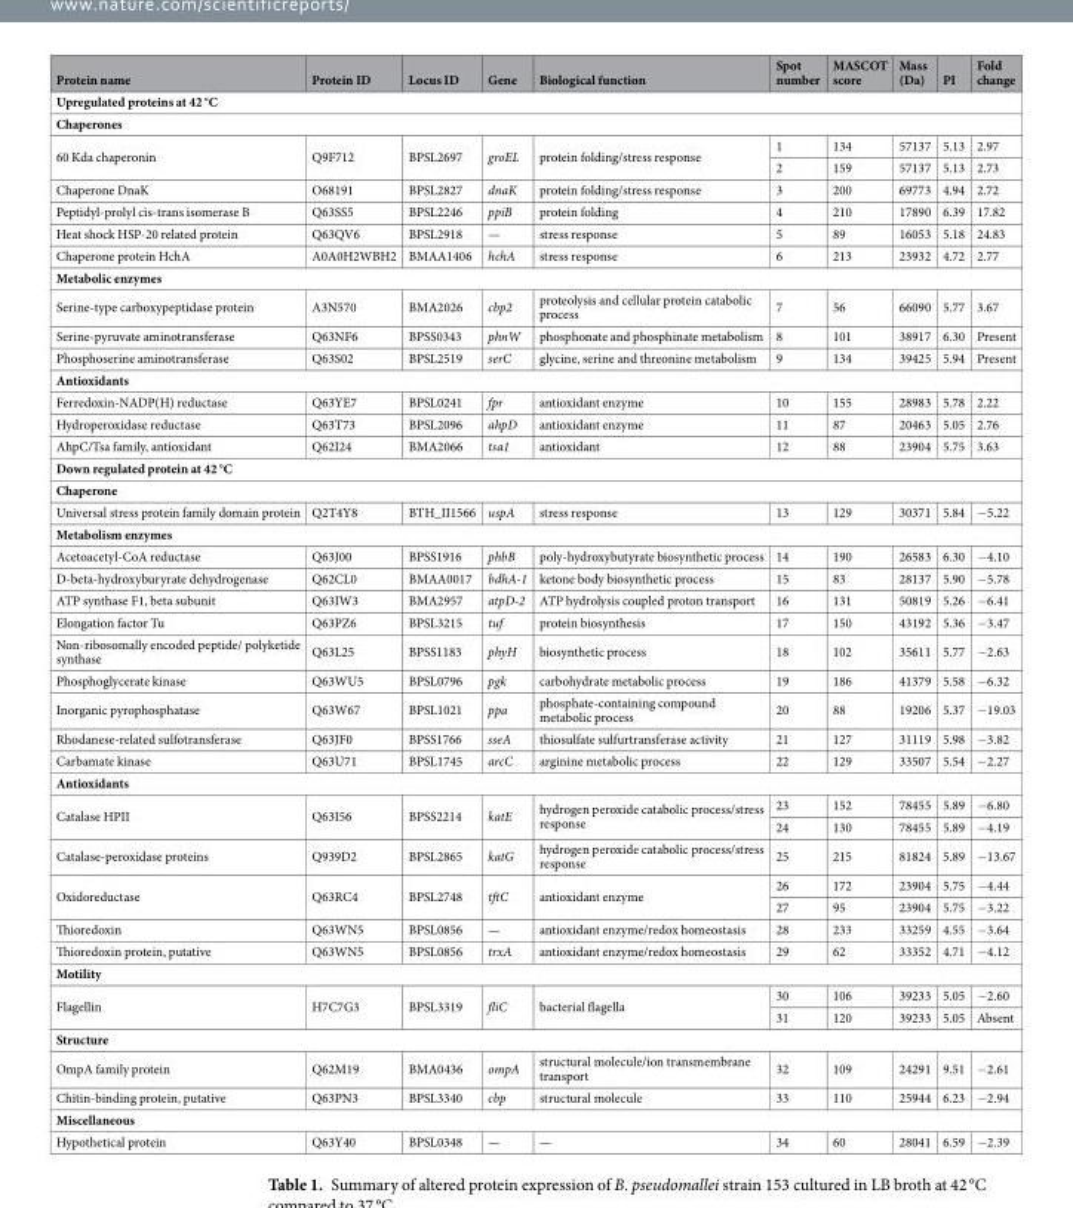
<table><thead><tr><td>Protein name</td><td>Protein ID</td><td>Locus ID</td><td>Gene</td><td>Biological function</td><td>Spot number</td><td>MASCOT score</td><td>Mass (Da)</td><td>PI</td><td>Fold change</td></tr></thead><tbody><tr><td colspan="10">Upregulated proteins at 42 °C</td></tr><tr><td colspan="10">Chaperones</td></tr><tr><td rowspan="2">60 Kda chaperonin</td><td rowspan="2">Q9F712</td><td rowspan="2">BPSL2697</td><td rowspan="2">groEL</td><td rowspan="2">protein folding/stress response</td><td>1</td><td>134</td><td>57137</td><td>5.13</td><td>2.97</td></tr><tr><td>2</td><td>159</td><td>57137</td><td>5.13</td><td>2.73</td></tr><tr><td>Chaperone DnaK</td><td>O68191</td><td>BPSL2827</td><td>dnaK</td><td>protein folding/stress response</td><td>3</td><td>200</td><td>69773</td><td>4.94</td><td>2.72</td></tr><tr><td>Peptidyl-prolyl cis-trans isomerase B</td><td>Q63SS5</td><td>BPSL2246</td><td>ppiB</td><td>protein folding</td><td>4</td><td>210</td><td>17890</td><td>6.39</td><td>17.82</td></tr><tr><td>Heat shock HSP-20 related protein</td><td>Q63QV6</td><td>BPSL2918</td><td>—</td><td>stress response</td><td>5</td><td>89</td><td>16053</td><td>5.18</td><td>24.83</td></tr><tr><td>Chaperone protein HchA</td><td>A0A0H2WBH2</td><td>BMAA1406</td><td>hchA</td><td>stress response</td><td>6</td><td>213</td><td>23932</td><td>4.72</td><td>2.77</td></tr><tr><td colspan="10">Metabolic enzymes</td></tr><tr><td>Serine-type carboxypeptidase protein</td><td>A3N570</td><td>BMA2026</td><td>cbp2</td><td>proteolysis and cellular protein catabolic process</td><td>7</td><td>56</td><td>66090</td><td>5.77</td><td>3.67</td></tr><tr><td>Serine-pyruvate aminotransferase</td><td>Q63NF6</td><td>BPSS0343</td><td>phnW</td><td>phosphonate and phosphinate metabolism</td><td>8</td><td>101</td><td>38917</td><td>6.30</td><td>Present</td></tr><tr><td>Phosphoserine aminotransferase</td><td>Q63S02</td><td>BPSL2519</td><td>serC</td><td>glycine, serine and threonine metabolism</td><td>9</td><td>134</td><td>39425</td><td>5.94</td><td>Present</td></tr><tr><td colspan="10">Antioxidants</td></tr><tr><td>Ferredoxin-NADP(H) reductase</td><td>Q63YE7</td><td>BPSL0241</td><td>fpr</td><td>antioxidant enzyme</td><td>10</td><td>155</td><td>28983</td><td>5.78</td><td>2.22</td></tr><tr><td>Hydroperoxidase reductase</td><td>Q63T73</td><td>BPSL2096</td><td>ahpD</td><td>antioxidant enzyme</td><td>11</td><td>87</td><td>20463</td><td>5.05</td><td>2.76</td></tr><tr><td>AhpC/Tsa family, antioxidant</td><td>Q62I24</td><td>BMA2066</td><td>tsa1</td><td>antioxidant</td><td>12</td><td>88</td><td>23904</td><td>5.75</td><td>3.63</td></tr><tr><td colspan="10">Down regulated protein at 42 °C</td></tr><tr><td colspan="10">Chaperone</td></tr><tr><td>Universal stress protein family domain protein</td><td>Q2T4Y8</td><td>BTH_II1566</td><td>uspA</td><td>stress response</td><td>13</td><td>129</td><td>30371</td><td>5.84</td><td>−5.22</td></tr><tr><td colspan="10">Metabolism enzymes</td></tr><tr><td>Acetoacetyl-CoA reductase</td><td>Q63J00</td><td>BPSS1916</td><td>phbB</td><td>poly-hydroxybutyrate biosynthetic process</td><td>14</td><td>190</td><td>26583</td><td>6.30</td><td>−4.10</td></tr><tr><td>D-beta-hydroxyburyrate dehydrogenase</td><td>Q62CL0</td><td>BMAA0017</td><td>bdhA-1</td><td>ketone body biosynthetic process</td><td>15</td><td>83</td><td>28137</td><td>5.90</td><td>−5.78</td></tr><tr><td>ATP synthase F1, beta subunit</td><td>Q63IW3</td><td>BMA2957</td><td>atpD-2</td><td>ATP hydrolysis coupled proton transport</td><td>16</td><td>131</td><td>50819</td><td>5.26</td><td>−6.41</td></tr><tr><td>Elongation factor Tu</td><td>Q63PZ6</td><td>BPSL3215</td><td>tuf</td><td>protein biosynthesis</td><td>17</td><td>150</td><td>43192</td><td>5.36</td><td>−3.47</td></tr><tr><td>Non-ribosomally encoded peptide/ polyketide synthase</td><td>Q63L25</td><td>BPSS1183</td><td>phyH</td><td>biosynthetic process</td><td>18</td><td>102</td><td>35611</td><td>5.77</td><td>−2.63</td></tr><tr><td>Phosphoglycerate kinase</td><td>Q63WU5</td><td>BPSL0796</td><td>pgk</td><td>carbohydrate metabolic process</td><td>19</td><td>186</td><td>41379</td><td>5.58</td><td>−6.32</td></tr><tr><td>Inorganic pyrophosphatase</td><td>Q63W67</td><td>BPSL1021</td><td>ppa</td><td>phosphate-containing compound metabolic process</td><td>20</td><td>88</td><td>19206</td><td>5.37</td><td>−19.03</td></tr><tr><td>Rhodanese-related sulfotransferase</td><td>Q63JF0</td><td>BPSS1766</td><td>sseA</td><td>thiosulfate sulfurtransferase activity</td><td>21</td><td>127</td><td>31119</td><td>5.98</td><td>−3.82</td></tr><tr><td>Carbamate kinase</td><td>Q63U71</td><td>BPSL1745</td><td>arcC</td><td>arginine metabolic process</td><td>22</td><td>129</td><td>33507</td><td>5.54</td><td>−2.27</td></tr><tr><td colspan="10">Antioxidants</td></tr><tr><td rowspan="2">Catalase HPII</td><td rowspan="2">Q63I56</td><td rowspan="2">BPSS2214</td><td rowspan="2">katE</td><td rowspan="2">hydrogen peroxide catabolic process/stress response</td><td>23</td><td>152</td><td>78455</td><td>5.89</td><td>−6.80</td></tr><tr><td>24</td><td>130</td><td>78455</td><td>5.89</td><td>−4.19</td></tr><tr><td>Catalase-peroxidase proteins</td><td>Q939D2</td><td>BPSL2865</td><td>katG</td><td>hydrogen peroxide catabolic process/stress response</td><td>25</td><td>215</td><td>81824</td><td>5.89</td><td>−13.67</td></tr><tr><td rowspan="2">Oxidoreductase</td><td rowspan="2">Q63RC4</td><td rowspan="2">BPSL2748</td><td rowspan="2">tftC</td><td rowspan="2">antioxidant enzyme</td><td>26</td><td>172</td><td>23904</td><td>5.75</td><td>−4.44</td></tr><tr><td>27</td><td>95</td><td>23904</td><td>5.75</td><td>−3.22</td></tr><tr><td>Thioredoxin</td><td>Q63WN5</td><td>BPSL0856</td><td>—</td><td>antioxidant enzyme/redox homeostasis</td><td>28</td><td>233</td><td>33259</td><td>4.55</td><td>−3.64</td></tr><tr><td>Thioredoxin protein, putative</td><td>Q63WN5</td><td>BPSL0856</td><td>trxA</td><td>antioxidant enzyme/redox homeostasis</td><td>29</td><td>62</td><td>33352</td><td>4.71</td><td>−4.12</td></tr><tr><td colspan="10">Motility</td></tr><tr><td rowspan="2">Flagellin</td><td rowspan="2">H7C7G3</td><td rowspan="2">BPSL3319</td><td rowspan="2">fliC</td><td rowspan="2">bacterial flagella</td><td>30</td><td>106</td><td>39233</td><td>5.05</td><td>−2.60</td></tr><tr><td>31</td><td>120</td><td>39233</td><td>5.05</td><td>Absent</td></tr><tr><td colspan="10">Structure</td></tr><tr><td>OmpA family protein</td><td>Q62M19</td><td>BMA0436</td><td>ompA</td><td>structural molecule/ion transmembrane transport</td><td>32</td><td>109</td><td>24291</td><td>9.51</td><td>−2.61</td></tr><tr><td>Chitin-binding protein, putative</td><td>Q63PN3</td><td>BPSL3340</td><td>cbp</td><td>structural molecule</td><td>33</td><td>110</td><td>25944</td><td>6.23</td><td>−2.94</td></tr><tr><td colspan="10">Miscellaneous</td></tr><tr><td>Hypothetical protein</td><td>Q63Y40</td><td>BPSL0348</td><td>—</td><td>—</td><td>34</td><td>60</td><td>28041</td><td>6.59</td><td>−2.39</td></tr></tbody></table>